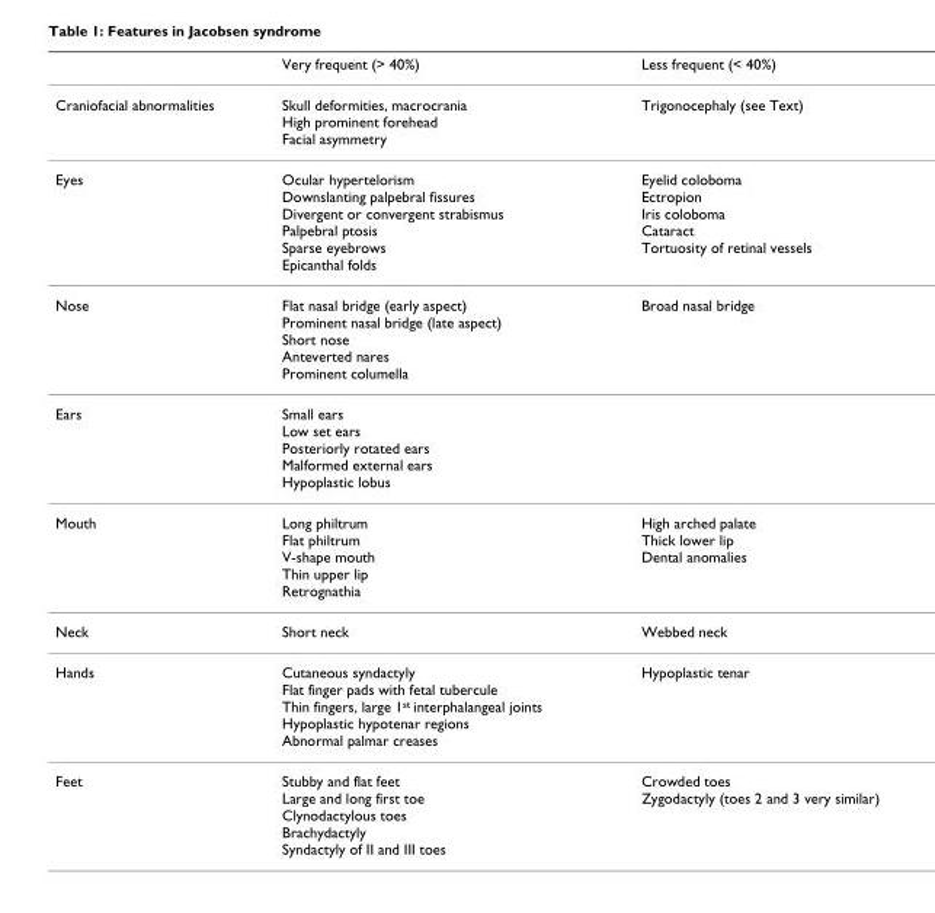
<table><thead><tr><td></td><td>Very frequent (&gt; 40%)</td><td>Less frequent (&lt; 40%)</td></tr></thead><tbody><tr><td>Craniofacial abnormalities</td><td>Skull deformities, macrocrania High prominent forehead Facial asymmetry</td><td>Trigonocephaly (see Text)</td></tr><tr><td>Eyes</td><td>Ocular hypertelorism Downslanting palpebral fissures Divergent or convergent strabismus Palpebral ptosis Sparse eyebrows Epicanthal folds</td><td>Eyelid coloboma Ectropion Iris coloboma Cataract Tortuosity of retinal vessels</td></tr><tr><td>Nose</td><td>Flat nasal bridge (early aspect) Prominent nasal bridge (late aspect) Short nose Anteverted nares Prominent columella</td><td>Broad nasal bridge</td></tr><tr><td>Ears</td><td>Small ears Low set ears Posteriorly rotated ears Malformed external ears Hypoplastic lobus</td><td></td></tr><tr><td>Mouth</td><td>Long philtrum Flat philtrum V-shape mouth Thin upper lip Retrognathia</td><td>High arched palate Thick lower lip Dental anomalies</td></tr><tr><td>Neck</td><td>Short neck</td><td>Webbed neck</td></tr><tr><td>Hands</td><td>Cutaneous syndactyly Flat finger pads with fetal tubercule Thin fingers, large 1<sup>st</sup> interphalangeal joints Hypoplastic hypotenar regions Abnormal palmar creases</td><td>Hypoplastic tenar</td></tr><tr><td>Feet</td><td>Stubby and flat feet Large and long first toe Clynodactylous toes Brachydactyly Syndactyly of II and III toes</td><td>Crowded toes Zygodactyly (toes 2 and 3 very similar)</td></tr></tbody></table>